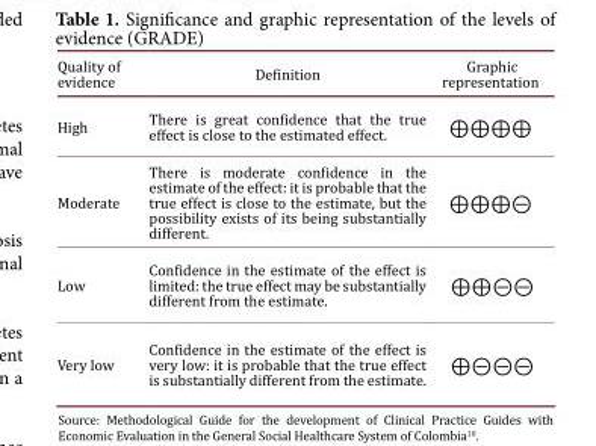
<table><thead><tr><td>Quality of evidence</td><td>Definition</td><td>Graphic representation</td></tr></thead><tbody><tr><td>High</td><td>There is great confidence that the true effect is close to the estimated effect.</td><td>⊕⊕⊕⊕</td></tr><tr><td>Moderate</td><td>There is moderate confidence in the estimate of the effect: it is probable that the true effect is close to the estimate, but the possibility exists of its being substantially different.</td><td>⊕⊕⊕⊝</td></tr><tr><td>Low</td><td>Confidence in the estimate of the effect is limited: the true effect may be substantially different from the estimate.</td><td>⊕⊕⊝⊝</td></tr><tr><td>Very low</td><td>Confidence in the estimate of the effect is very low: it is probable that the true effect is substantially different from the estimate.</td><td>⊕⊝⊝⊝</td></tr></tbody></table>